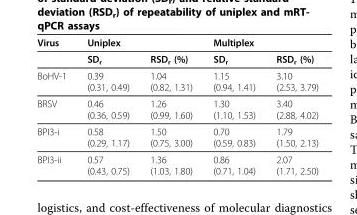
<table><thead><tr><td rowspan="2">Virus</td><td colspan="2">Uniplex</td><td colspan="2">Multiplex</td></tr><tr><td>SD<sub>r</sub></td><td>RSD<sub>r</sub> (%)</td><td>SD<sub>r</sub></td><td>RSD<sub>r</sub> (%)</td></tr></thead><tbody><tr><td>BoHV-1</td><td>0.39 (0.31, 0.49)</td><td>1.04 (0.82, 1.31)</td><td>1.15 (0.94, 1.41)</td><td>3.10 (2.53, 3.79)</td></tr><tr><td>BRSV</td><td>0.46 (0.36, 0.59)</td><td>1.26 (0.99, 1.60)</td><td>1.30 (1.10, 1.53)</td><td>3.40 (2.88, 4.02)</td></tr><tr><td>BPI3-i</td><td>0.58 (0.29, 1.17)</td><td>1.50 (0.75, 3.00)</td><td>0.70 (0.59, 0.83)</td><td>1.79 (1.50, 2.13)</td></tr><tr><td>BPI3-ii</td><td>0.57 (0.43, 0.75)</td><td>1.36 (1.03, 1.80)</td><td>0.86 (0.71, 1.04)</td><td>2.07 (1.71, 2.50)</td></tr></tbody></table>